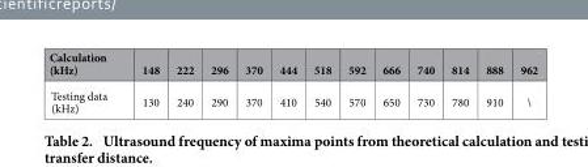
<table><thead><tr><td>Calculation (kHz)</td><td>148</td><td>222</td><td>296</td><td>370</td><td>444</td><td>518</td><td>592</td><td>666</td><td>740</td><td>814</td><td>888</td><td>962</td></tr></thead><tbody><tr><td>Testing data (kHz)</td><td>130</td><td>240</td><td>290</td><td>370</td><td>410</td><td>540</td><td>570</td><td>650</td><td>730</td><td>780</td><td>910</td><td>\</td></tr></tbody></table>